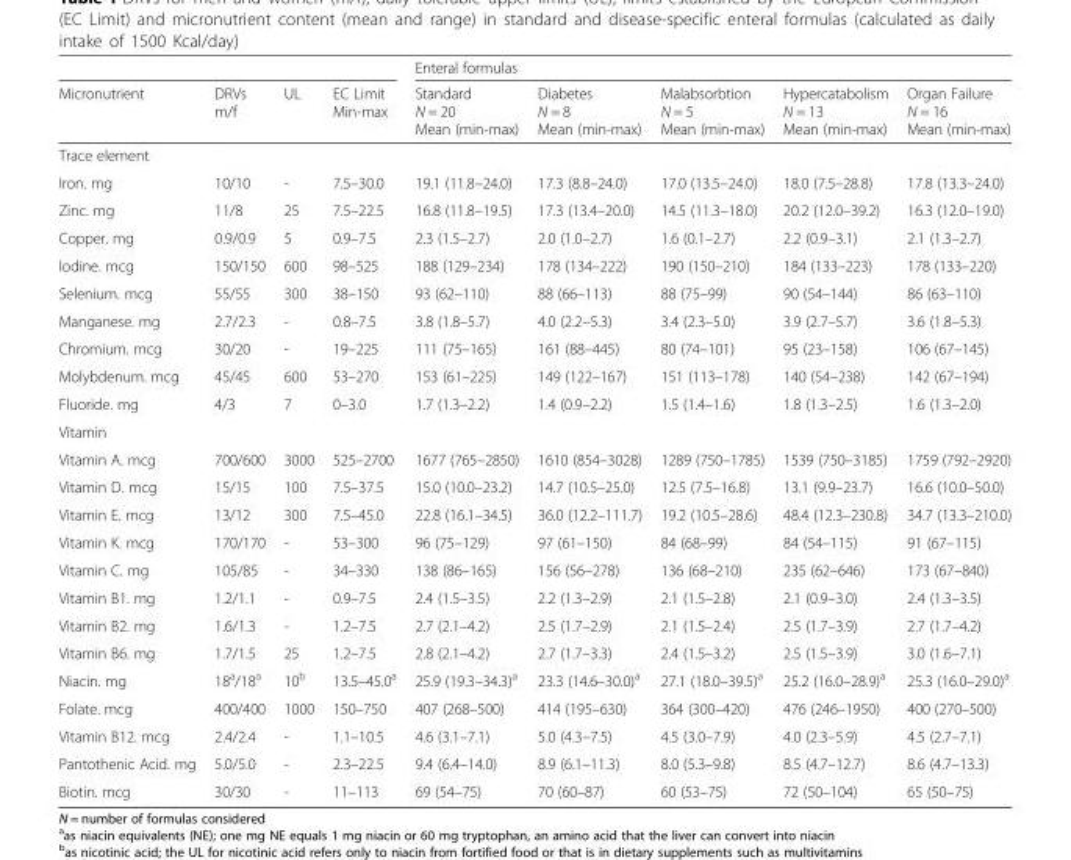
<table><thead><tr><td rowspan="2">Micronutrient</td><td rowspan="2">DRVs m/f</td><td rowspan="2">UL</td><td rowspan="2">EC Limit Min-max</td><td colspan="5">Enteral formulas</td></tr><tr><td>Standard N = 20 Mean (min-max)</td><td>Diabetes N = 8 Mean (min-max)</td><td>Malabsorbtion N = 5 Mean (min-max)</td><td>Hypercatabolism N = 13 Mean (min-max)</td><td>Organ Failure N = 16 Mean (min-max)</td></tr></thead><tbody><tr><td colspan="9">Trace element</td></tr><tr><td>Iron. mg</td><td>10/10</td><td>-</td><td>7.5–30.0</td><td>19.1 (11.8–24.0)</td><td>17.3 (8.8–24.0)</td><td>17.0 (13.5–24.0)</td><td>18.0 (7.5–28.8)</td><td>17.8 (13.3–24.0)</td></tr><tr><td>Zinc. mg</td><td>11/8</td><td>25</td><td>7.5–22.5</td><td>16.8 (11.8–19.5)</td><td>17.3 (13.4–20.0)</td><td>14.5 (11.3–18.0)</td><td>20.2 (12.0–39.2)</td><td>16.3 (12.0–19.0)</td></tr><tr><td>Copper. mg</td><td>0.9/0.9</td><td>5</td><td>0.9–7.5</td><td>2.3 (1.5–2.7)</td><td>2.0 (1.0–2.7)</td><td>1.6 (0.1–2.7)</td><td>2.2 (0.9–3.1)</td><td>2.1 (1.3–2.7)</td></tr><tr><td>Iodine. mcg</td><td>150/150</td><td>600</td><td>98–525</td><td>188 (129–234)</td><td>178 (134–222)</td><td>190 (150–210)</td><td>184 (133–223)</td><td>178 (133–220)</td></tr><tr><td>Selenium. mcg</td><td>55/55</td><td>300</td><td>38–150</td><td>93 (62–110)</td><td>88 (66–113)</td><td>88 (75–99)</td><td>90 (54–144)</td><td>86 (63–110)</td></tr><tr><td>Manganese. mg</td><td>2.7/2.3</td><td>-</td><td>0.8–7.5</td><td>3.8 (1.8–5.7)</td><td>4.0 (2.2–5.3)</td><td>3.4 (2.3–5.0)</td><td>3.9 (2.7–5.7)</td><td>3.6 (1.8–5.3)</td></tr><tr><td>Chromium. mcg</td><td>30/20</td><td>-</td><td>19–225</td><td>111 (75–165)</td><td>161 (88–445)</td><td>80 (74–101)</td><td>95 (23–158)</td><td>106 (67–145)</td></tr><tr><td>Molybdenum. mcg</td><td>45/45</td><td>600</td><td>53–270</td><td>153 (61–225)</td><td>149 (122–167)</td><td>151 (113–178)</td><td>140 (54–238)</td><td>142 (67–194)</td></tr><tr><td>Fluoride. mg</td><td>4/3</td><td>7</td><td>0–3.0</td><td>1.7 (1.3–2.2)</td><td>1.4 (0.9–2.2)</td><td>1.5 (1.4–1.6)</td><td>1.8 (1.3–2.5)</td><td>1.6 (1.3–2.0)</td></tr><tr><td colspan="9">Vitamin</td></tr><tr><td>Vitamin A. mcg</td><td>700/600</td><td>3000</td><td>525–2700</td><td>1677 (765–2850)</td><td>1610 (854–3028)</td><td>1289 (750–1785)</td><td>1539 (750–3185)</td><td>1759 (792–2920)</td></tr><tr><td>Vitamin D. mcg</td><td>15/15</td><td>100</td><td>7.5–37.5</td><td>15.0 (10.0–23.2)</td><td>14.7 (10.5–25.0)</td><td>12.5 (7.5–16.8)</td><td>13.1 (9.9–23.7)</td><td>16.6 (10.0–50.0)</td></tr><tr><td>Vitamin E. mcg</td><td>13/12</td><td>300</td><td>7.5–45.0</td><td>22.8 (16.1–34.5)</td><td>36.0 (12.2–111.7)</td><td>19.2 (10.5–28.6)</td><td>48.4 (12.3–230.8)</td><td>34.7 (13.3–210.0)</td></tr><tr><td>Vitamin K. mcg</td><td>170/170</td><td>-</td><td>53–300</td><td>96 (75–129)</td><td>97 (61–150)</td><td>84 (68–99)</td><td>84 (54–115)</td><td>91 (67–115)</td></tr><tr><td>Vitamin C. mg</td><td>105/85</td><td>-</td><td>34–330</td><td>138 (86–165)</td><td>156 (56–278)</td><td>136 (68–210)</td><td>235 (62–646)</td><td>173 (67–840)</td></tr><tr><td>Vitamin B1. mg</td><td>1.2/1.1</td><td>-</td><td>0.9–7.5</td><td>2.4 (1.5–3.5)</td><td>2.2 (1.3–2.9)</td><td>2.1 (1.5–2.8)</td><td>2.1 (0.9–3.0)</td><td>2.4 (1.3–3.5)</td></tr><tr><td>Vitamin B2. mg</td><td>1.6/1.3</td><td>-</td><td>1.2–7.5</td><td>2.7 (2.1–4.2)</td><td>2.5 (1.7–2.9)</td><td>2.1 (1.5–2.4)</td><td>2.5 (1.7–3.9)</td><td>2.7 (1.7–4.2)</td></tr><tr><td>Vitamin B6. mg</td><td>1.7/1.5</td><td>25</td><td>1.2–7.5</td><td>2.8 (2.1–4.2)</td><td>2.7 (1.7–3.3)</td><td>2.4 (1.5–3.2)</td><td>2.5 (1.5–3.9)</td><td>3.0 (1.6–7.1)</td></tr><tr><td>Niacin. mg</td><td>18<sup>a</sup>/18<sup>a</sup></td><td>10<sup>b</sup></td><td>13.5–45.0<sup>a</sup></td><td>25.9 (19.3–34.3)<sup>a</sup></td><td>23.3 (14.6–30.0)<sup>a</sup></td><td>27.1 (18.0–39.5)<sup>a</sup></td><td>25.2 (16.0–28.9)<sup>a</sup></td><td>25.3 (16.0–29.0)<sup>a</sup></td></tr><tr><td>Folate. mcg</td><td>400/400</td><td>1000</td><td>150–750</td><td>407 (268–500)</td><td>414 (195–630)</td><td>364 (300–420)</td><td>476 (246–1950)</td><td>400 (270–500)</td></tr><tr><td>Vitamin B12. mcg</td><td>2.4/2.4</td><td>-</td><td>1.1–10.5</td><td>4.6 (3.1–7.1)</td><td>5.0 (4.3–7.5)</td><td>4.5 (3.0–7.9)</td><td>4.0 (2.3–5.9)</td><td>4.5 (2.7–7.1)</td></tr><tr><td>Pantothenic Acid. mg</td><td>5.0/5.0</td><td>-</td><td>2.3–22.5</td><td>9.4 (6.4–14.0)</td><td>8.9 (6.1–11.3)</td><td>8.0 (5.3–9.8)</td><td>8.5 (4.7–12.7)</td><td>8.6 (4.7–13.3)</td></tr><tr><td>Biotin. mcg</td><td>30/30</td><td>-</td><td>11–113</td><td>69 (54–75)</td><td>70 (60–87)</td><td>60 (53–75)</td><td>72 (50–104)</td><td>65 (50–75)</td></tr></tbody></table>